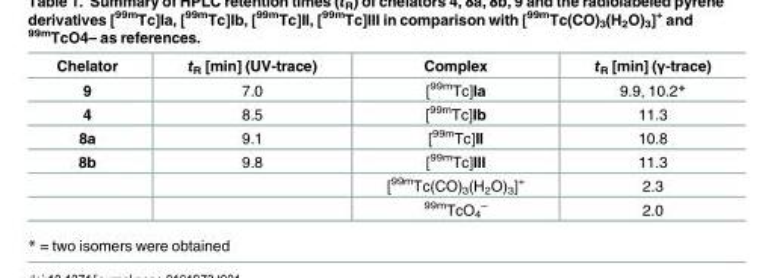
<table><thead><tr><td>Chelator</td><td>t<sub>R</sub> [min] (UV-trace)</td><td>Complex</td><td>t<sub>R</sub> [min] (γ-trace)</td></tr></thead><tbody><tr><td>9</td><td>7.0</td><td>[<sup>99m</sup>Tc]Ia</td><td>9.9, 10.2*</td></tr><tr><td>4</td><td>8.5</td><td>[<sup>99m</sup>Tc]Ib</td><td>11.3</td></tr><tr><td>8a</td><td>9.1</td><td>[<sup>99m</sup>Tc]II</td><td>10.8</td></tr><tr><td rowspan="3">8b</td><td>9.8</td><td>[<sup>99m</sup>Tc]III</td><td>11.3</td></tr><tr><td></td><td>[<sup>99m</sup>Tc(CO)<sub>3</sub>(H<sub>2</sub>O)<sub>3</sub>]<sup>+</sup></td><td>2.3</td></tr><tr><td></td><td><sup>99m</sup>TcO<sub>4</sub> <sup>–</sup></td><td>2.0</td></tr></tbody></table>